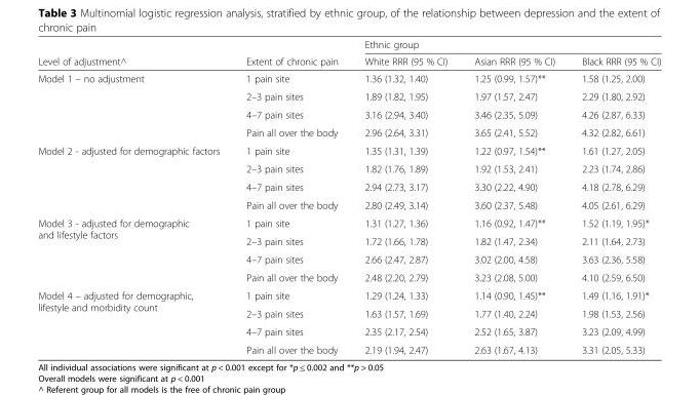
<table><thead><tr><td rowspan="2">Level of adjustment^</td><td rowspan="2">Extent of chronic pain</td><td colspan="3">Ethnic group</td></tr><tr><td>White RRR (95 % CI)</td><td>Asian RRR (95 % CI)</td><td>Black RRR (95 % CI)</td></tr></thead><tbody><tr><td rowspan="4">Model 1 – no adjustment</td><td>1 pain site</td><td>1.36 (1.32, 1.40)</td><td>1.25 (0.99, 1.57)**</td><td>1.58 (1.25, 2.00)</td></tr><tr><td>2–3 pain sites</td><td>1.89 (1.82, 1.95)</td><td>1.97 (1.57, 2.47)</td><td>2.29 (1.80, 2.92)</td></tr><tr><td>4–7 pain sites</td><td>3.16 (2.94, 3.40)</td><td>3.46 (2.35, 5.09)</td><td>4.26 (2.87, 6.33)</td></tr><tr><td>Pain all over the body</td><td>2.96 (2.64, 3.31)</td><td>3.65 (2.41, 5.52)</td><td>4.32 (2.82, 6.61)</td></tr><tr><td rowspan="4">Model 2 - adjusted for demographic factors</td><td>1 pain site</td><td>1.35 (1.31, 1.39)</td><td>1.22 (0.97, 1.54)**</td><td>1.61 (1.27, 2.05)</td></tr><tr><td>2–3 pain sites</td><td>1.82 (1.76, 1.89)</td><td>1.92 (1.53, 2.41)</td><td>2.23 (1.74, 2.86)</td></tr><tr><td>4–7 pain sites</td><td>2.94 (2.73, 3.17)</td><td>3.30 (2.22, 4.90)</td><td>4.18 (2.78, 6.29)</td></tr><tr><td>Pain all over the body</td><td>2.80 (2.49, 3.14)</td><td>3.60 (2.37, 5.48)</td><td>4.05 (2.61, 6.29)</td></tr><tr><td rowspan="4">Model 3 - adjusted for demographic and lifestyle factors</td><td>1 pain site</td><td>1.31 (1.27, 1.36)</td><td>1.16 (0.92, 1.47)**</td><td>1.52 (1.19, 1.95)*</td></tr><tr><td>2–3 pain sites</td><td>1.72 (1.66, 1.78)</td><td>1.82 (1.47, 2.34)</td><td>2.11 (1.64, 2.73)</td></tr><tr><td>4–7 pain sites</td><td>2.66 (2.47, 2.87)</td><td>3.02 (2.00, 4.58)</td><td>3.63 (2.36, 5.58)</td></tr><tr><td>Pain all over the body</td><td>2.48 (2.20, 2.79)</td><td>3.23 (2.08, 5.00)</td><td>4.10 (2.59, 6.50)</td></tr><tr><td rowspan="4">Model 4 – adjusted for demographic, lifestyle and morbidity count</td><td>1 pain site</td><td>1.29 (1.24, 1.33)</td><td>1.14 (0.90, 1.45)**</td><td>1.49 (1.16, 1.91)*</td></tr><tr><td>2–3 pain sites</td><td>1.63 (1.57, 1.69)</td><td>1.77 (1.40, 2.24)</td><td>1.98 (1.53, 2.56)</td></tr><tr><td>4–7 pain sites</td><td>2.35 (2.17, 2.54)</td><td>2.52 (1.65, 3.87)</td><td>3.23 (2.09, 4.99)</td></tr><tr><td>Pain all over the body</td><td>2.19 (1.94, 2.47)</td><td>2.63 (1.67, 4.13)</td><td>3.31 (2.05, 5.33)</td></tr></tbody></table>